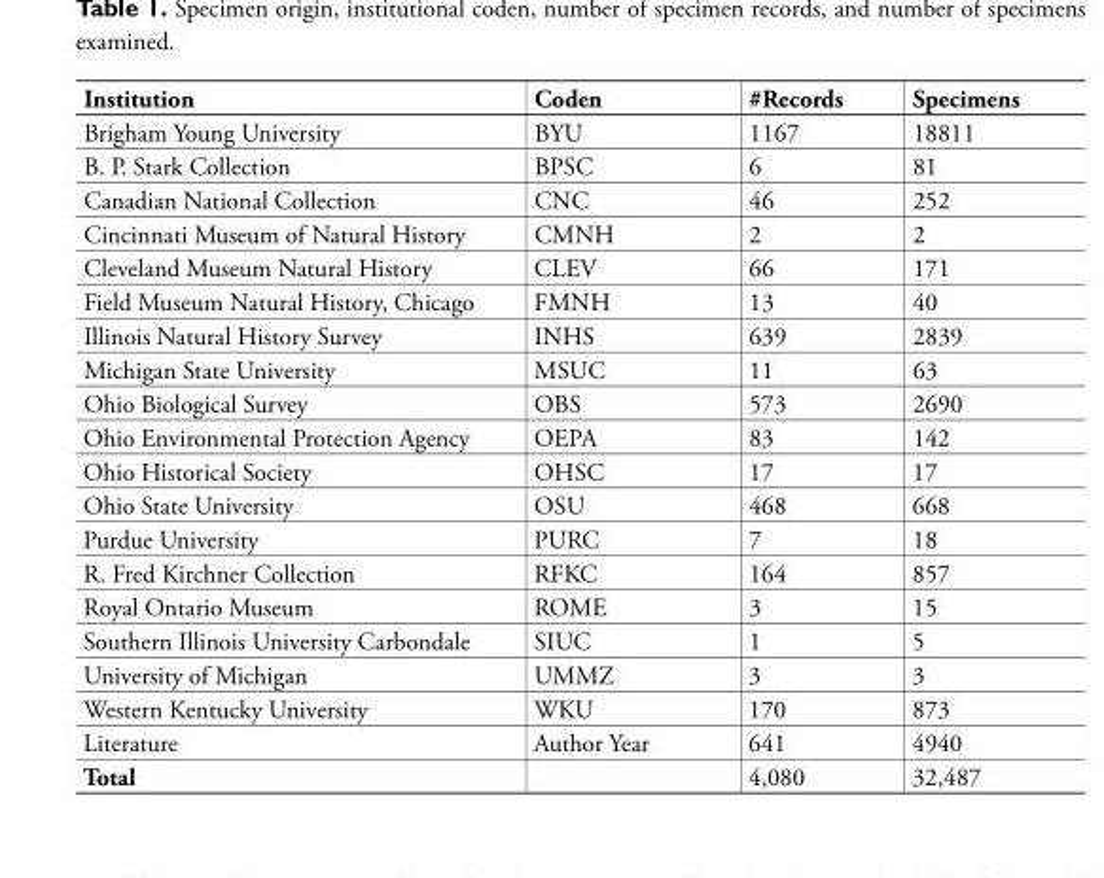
<table><tbody><tr><td>Institution</td><td>Coden</td><td>#Records</td><td>Specimens</td></tr><tr><td>Brigham Young University</td><td>BYU</td><td>1167</td><td>18811</td></tr><tr><td>B. P. Stark Collection</td><td>BPSC</td><td>6</td><td>81</td></tr><tr><td>Canadian National Collection</td><td>CNC</td><td>46</td><td>252</td></tr><tr><td>Cincinnati Museum of Natural History</td><td>CMNH</td><td>2</td><td>2</td></tr><tr><td>Cleveland Museum Natural History</td><td>CLEV</td><td>66</td><td>171</td></tr><tr><td>Field Museum Natural History, Chicago</td><td>FMNH</td><td>13</td><td>40</td></tr><tr><td>Illinois Natural History Survey</td><td>INHS</td><td>639</td><td>2839</td></tr><tr><td>Michigan State University</td><td>MSUC</td><td>11</td><td>63</td></tr><tr><td>Ohio Biological Survey</td><td>OBS</td><td>573</td><td>2690</td></tr><tr><td>Ohio Environmental Protection Agency</td><td>OEPA</td><td>83</td><td>142</td></tr><tr><td>Ohio Historical Society</td><td>OHSC</td><td>17</td><td>17</td></tr><tr><td>Ohio State University</td><td>OSU</td><td>468</td><td>668</td></tr><tr><td>Purdue University</td><td>PURC</td><td>7</td><td>18</td></tr><tr><td>R. Fred Kirchner Collection</td><td>RFKC</td><td>164</td><td>857</td></tr><tr><td>Royal Ontario Museum</td><td>ROME</td><td>3</td><td>15</td></tr><tr><td>Southern Illinois University Carbondale</td><td>SIUC</td><td>1</td><td>5</td></tr><tr><td>University of Michigan</td><td>UMMZ</td><td>3</td><td>3</td></tr><tr><td>Western Kentucky University</td><td>WKU</td><td>170</td><td>873</td></tr><tr><td>Literature</td><td>Author Year</td><td>641</td><td>4940</td></tr><tr><td>Total</td><td></td><td>4,080</td><td>32,487</td></tr></tbody></table>